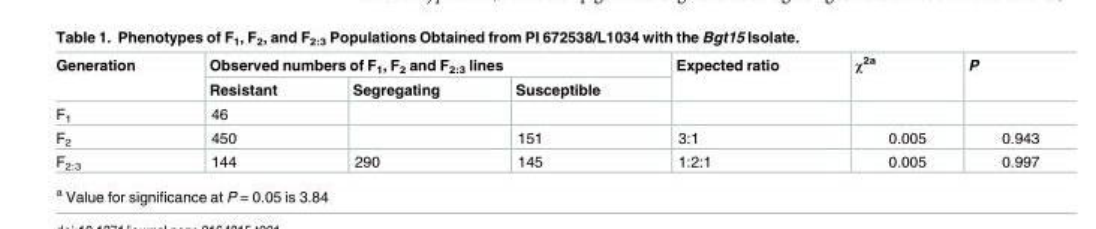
<table><thead><tr><td rowspan="2">Generation</td><td colspan="3">Observed numbers of F<sub>1</sub>, F<sub>2</sub> and F<sub>2:3</sub> lines</td><td rowspan="2">Expected ratio</td><td rowspan="2">χ<sup>2a</sup></td><td rowspan="2">P</td></tr><tr><td>Resistant</td><td>Segregating</td><td>Susceptible</td></tr></thead><tbody><tr><td>F<sub>1</sub></td><td>46</td><td></td><td></td><td></td><td></td><td></td></tr><tr><td>F<sub>2</sub></td><td>450</td><td></td><td>151</td><td>3:1</td><td>0.005</td><td>0.943</td></tr><tr><td>F<sub>2:3</sub></td><td>144</td><td>290</td><td>145</td><td>1:2:1</td><td>0.005</td><td>0.997</td></tr></tbody></table>